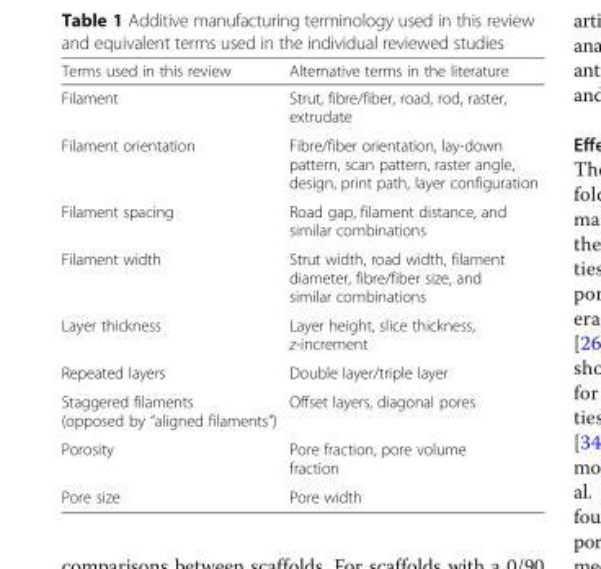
<table><thead><tr><td>Terms used in this review</td><td>Alternative terms in the literature</td></tr></thead><tbody><tr><td>Filament</td><td>Strut, fibre/fiber, road, rod, raster, extrudate</td></tr><tr><td>Filament orientation</td><td>Fibre/fiber orientation, lay-down pattern, scan pattern, raster angle, design, print path, layer configuration</td></tr><tr><td>Filament spacing</td><td>Road gap, filament distance, and similar combinations</td></tr><tr><td>Filament width</td><td>Strut width, road width, filament diameter, fibre/fiber size, and similar combinations</td></tr><tr><td>Layer thickness</td><td>Layer height, slice thickness, z-increment</td></tr><tr><td>Repeated layers</td><td>Double layer/triple layer</td></tr><tr><td>Staggered filaments (opposed by “aligned filaments”)</td><td>Offset layers, diagonal pores</td></tr><tr><td>Porosity</td><td>Pore fraction, pore volume fraction</td></tr><tr><td>Pore size</td><td>Pore width</td></tr></tbody></table>